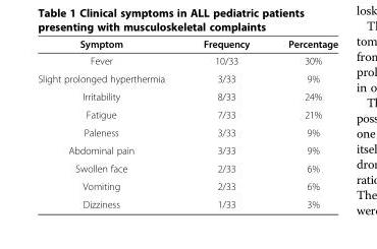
<table><thead><tr><td>Symptom</td><td>Frequency</td><td>Percentage</td></tr></thead><tbody><tr><td>Fever</td><td>10/33</td><td>30%</td></tr><tr><td>Slight prolonged hyperthermia</td><td>3/33</td><td>9%</td></tr><tr><td>Irritability</td><td>8/33</td><td>24%</td></tr><tr><td>Fatigue</td><td>7/33</td><td>21%</td></tr><tr><td>Paleness</td><td>3/33</td><td>9%</td></tr><tr><td>Abdominal pain</td><td>3/33</td><td>9%</td></tr><tr><td>Swollen face</td><td>2/33</td><td>6%</td></tr><tr><td>Vomiting</td><td>2/33</td><td>6%</td></tr><tr><td>Dizziness</td><td>1/33</td><td>3%</td></tr></tbody></table>